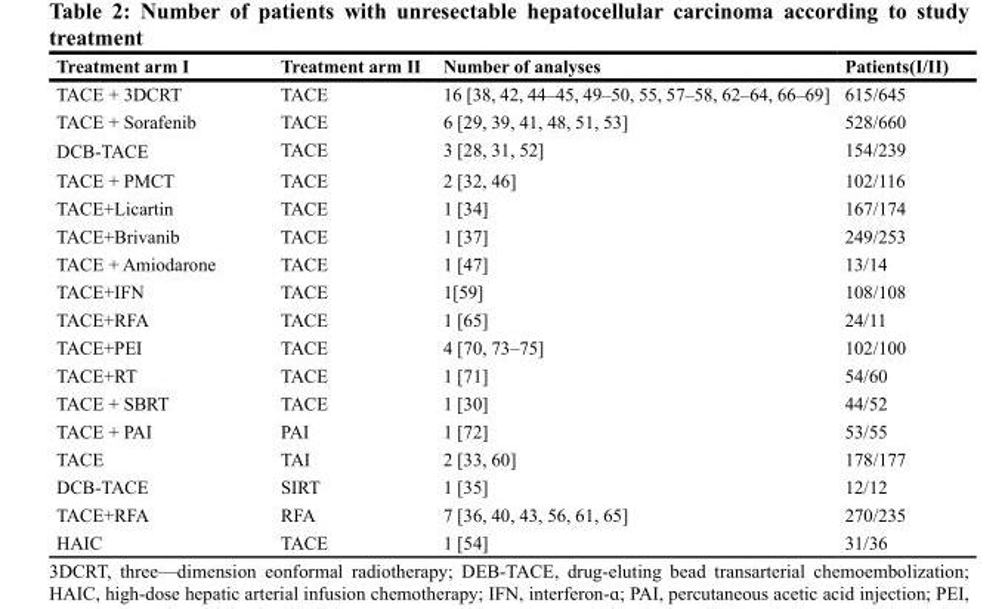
<table><thead><tr><td>Treatment arm I</td><td>Treatment arm II</td><td>Number of analyses</td><td>Patients(I/II)</td></tr></thead><tbody><tr><td>TACE + 3DCRT</td><td>TACE</td><td>16 [38, 42, 44–45, 49–50, 55, 57–58, 62–64, 66–69]</td><td>615/645</td></tr><tr><td>TACE + Sorafenib</td><td>TACE</td><td>6 [29, 39, 41, 48, 51, 53]</td><td>528/660</td></tr><tr><td>DCB-TACE</td><td>TACE</td><td>3 [28, 31, 52]</td><td>154/239</td></tr><tr><td>TACE + PMCT</td><td>TACE</td><td>2 [32, 46]</td><td>102/116</td></tr><tr><td>TACE+Licartin</td><td>TACE</td><td>1 [34]</td><td>167/174</td></tr><tr><td>TACE+Brivanib</td><td>TACE</td><td>1 [37]</td><td>249/253</td></tr><tr><td>TACE + Amiodarone</td><td>TACE</td><td>1 [47]</td><td>13/14</td></tr><tr><td>TACE+IFN</td><td>TACE</td><td>1[59]</td><td>108/108</td></tr><tr><td>TACE+RFA</td><td>TACE</td><td>1 [65]</td><td>24/11</td></tr><tr><td>TACE+PEI</td><td>TACE</td><td>4 [70, 73–75]</td><td>102/100</td></tr><tr><td>TACE+RT</td><td>TACE</td><td>1 [71]</td><td>54/60</td></tr><tr><td>TACE + SBRT</td><td>TACE</td><td>1 [30]</td><td>44/52</td></tr><tr><td>TACE + PAI</td><td>PAI</td><td>1 [72]</td><td>53/55</td></tr><tr><td>TACE</td><td>TAI</td><td>2 [33, 60]</td><td>178/177</td></tr><tr><td>DCB-TACE</td><td>SIRT</td><td>1 [35]</td><td>12/12</td></tr><tr><td>TACE+RFA</td><td>RFA</td><td>7 [36, 40, 43, 56, 61, 65]</td><td>270/235</td></tr><tr><td>HAIC</td><td>TACE</td><td>1 [54]</td><td>31/36</td></tr></tbody></table>